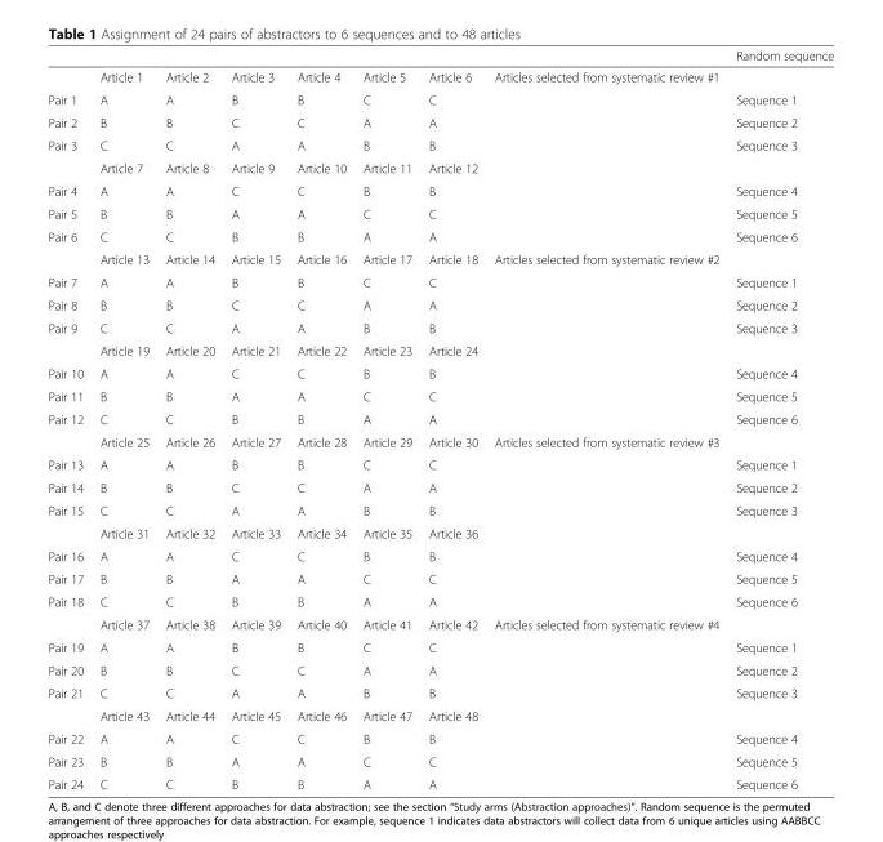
<table><thead><tr><td></td><td></td><td></td><td></td><td></td><td></td><td></td><td></td><td>Random sequence</td></tr></thead><tbody><tr><td></td><td>Article 1</td><td>Article 2</td><td>Article 3</td><td>Article 4</td><td>Article 5</td><td>Article 6</td><td rowspan="8">Articles selected from systematic review #1</td><td></td></tr><tr><td>Pair 1</td><td>A</td><td>A</td><td>B</td><td>B</td><td>C</td><td>C</td><td>Sequence 1</td></tr><tr><td>Pair 2</td><td>B</td><td>B</td><td>C</td><td>C</td><td>A</td><td>A</td><td>Sequence 2</td></tr><tr><td rowspan="2">Pair 3</td><td>C</td><td>C</td><td>A</td><td>A</td><td>B</td><td>B</td><td>Sequence 3</td></tr><tr><td>Article 7</td><td>Article 8</td><td>Article 9</td><td>Article 10</td><td>Article 11</td><td>Article 12</td><td></td></tr><tr><td>Pair 4</td><td>A</td><td>A</td><td>C</td><td>C</td><td>B</td><td>B</td><td>Sequence 4</td></tr><tr><td>Pair 5</td><td>B</td><td>B</td><td>A</td><td>A</td><td>C</td><td>C</td><td>Sequence 5</td></tr><tr><td rowspan="2">Pair 6</td><td>C</td><td>C</td><td>B</td><td>B</td><td>A</td><td>A</td><td>Sequence 6</td></tr><tr><td>Article 13</td><td>Article 14</td><td>Article 15</td><td>Article 16</td><td>Article 17</td><td>Article 18</td><td rowspan="8">Articles selected from systematic review #2</td><td></td></tr><tr><td>Pair 7</td><td>A</td><td>A</td><td>B</td><td>B</td><td>C</td><td>C</td><td>Sequence 1</td></tr><tr><td>Pair 8</td><td>B</td><td>B</td><td>C</td><td>C</td><td>A</td><td>A</td><td>Sequence 2</td></tr><tr><td rowspan="2">Pair 9</td><td>C</td><td>C</td><td>A</td><td>A</td><td>B</td><td>B</td><td>Sequence 3</td></tr><tr><td>Article 19</td><td>Article 20</td><td>Article 21</td><td>Article 22</td><td>Article 23</td><td>Article 24</td><td></td></tr><tr><td>Pair 10</td><td>A</td><td>A</td><td>C</td><td>C</td><td>B</td><td>B</td><td>Sequence 4</td></tr><tr><td>Pair 11</td><td>B</td><td>B</td><td>A</td><td>A</td><td>C</td><td>C</td><td>Sequence 5</td></tr><tr><td rowspan="2">Pair 12</td><td>C</td><td>C</td><td>B</td><td>B</td><td>A</td><td>A</td><td>Sequence 6</td></tr><tr><td>Article 25</td><td>Article 26</td><td>Article 27</td><td>Article 28</td><td>Article 29</td><td>Article 30</td><td rowspan="8">Articles selected from systematic review #3</td><td></td></tr><tr><td>Pair 13</td><td>A</td><td>A</td><td>B</td><td>B</td><td>C</td><td>C</td><td>Sequence 1</td></tr><tr><td>Pair 14</td><td>B</td><td>B</td><td>C</td><td>C</td><td>A</td><td>A</td><td>Sequence 2</td></tr><tr><td rowspan="2">Pair 15</td><td>C</td><td>C</td><td>A</td><td>A</td><td>B</td><td>B</td><td>Sequence 3</td></tr><tr><td>Article 31</td><td>Article 32</td><td>Article 33</td><td>Article 34</td><td>Article 35</td><td>Article 36</td><td></td></tr><tr><td>Pair 16</td><td>A</td><td>A</td><td>C</td><td>C</td><td>B</td><td>B</td><td>Sequence 4</td></tr><tr><td>Pair 17</td><td>B</td><td>B</td><td>A</td><td>A</td><td>C</td><td>C</td><td>Sequence 5</td></tr><tr><td rowspan="2">Pair 18</td><td>C</td><td>C</td><td>B</td><td>B</td><td>A</td><td>A</td><td>Sequence 6</td></tr><tr><td>Article 37</td><td>Article 38</td><td>Article 39</td><td>Article 40</td><td>Article 41</td><td>Article 42</td><td rowspan="8">Articles selected from systematic review #4</td><td></td></tr><tr><td>Pair 19</td><td>A</td><td>A</td><td>B</td><td>B</td><td>C</td><td>C</td><td>Sequence 1</td></tr><tr><td>Pair 20</td><td>B</td><td>B</td><td>C</td><td>C</td><td>A</td><td>A</td><td>Sequence 2</td></tr><tr><td rowspan="2">Pair 21</td><td>C</td><td>C</td><td>A</td><td>A</td><td>B</td><td>B</td><td>Sequence 3</td></tr><tr><td>Article 43</td><td>Article 44</td><td>Article 45</td><td>Article 46</td><td>Article 47</td><td>Article 48</td><td></td></tr><tr><td>Pair 22</td><td>A</td><td>A</td><td>C</td><td>C</td><td>B</td><td>B</td><td>Sequence 4</td></tr><tr><td>Pair 23</td><td>B</td><td>B</td><td>A</td><td>A</td><td>C</td><td>C</td><td>Sequence 5</td></tr><tr><td>Pair 24</td><td>C</td><td>C</td><td>B</td><td>B</td><td>A</td><td>A</td><td>Sequence 6</td></tr></tbody></table>